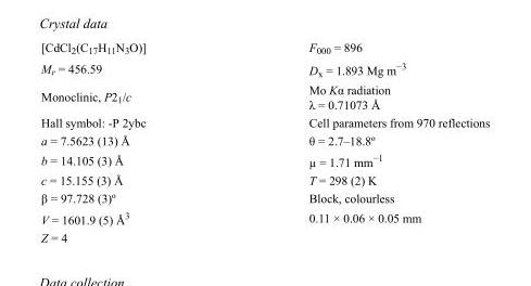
<table><tbody><tr><td>[CdCl<sub>2</sub>(C<sub>17</sub>H<sub>11</sub>N<sub>3</sub>O)]</td><td>F<sub>000</sub> = 896</td></tr><tr><td>M<sub>r</sub> = 456.59</td><td>D<sub>x</sub> = 1.893 Mg m<sup>−3</sup></td></tr><tr><td>Monoclinic, P2<sub>1</sub>/c</td><td>Mo Kα radiation λ = 0.71073 Å</td></tr><tr><td>Hall symbol: -P 2ybc</td><td>Cell parameters from 970 reflections</td></tr><tr><td>a = 7.5623 (13) Å</td><td>θ = 2.7–18.8º</td></tr><tr><td>b = 14.105 (3) Å</td><td>µ = 1.71 mm<sup>−1</sup></td></tr><tr><td>c = 15.155 (3) Å</td><td>T = 298 (2) K</td></tr><tr><td>β = 97.728 (3)º</td><td>Block, colourless</td></tr><tr><td>V = 1601.9 (5) Å<sup>3</sup></td><td>0.11 × 0.06 × 0.05 mm</td></tr><tr><td>Z = 4</td><td></td></tr></tbody></table>